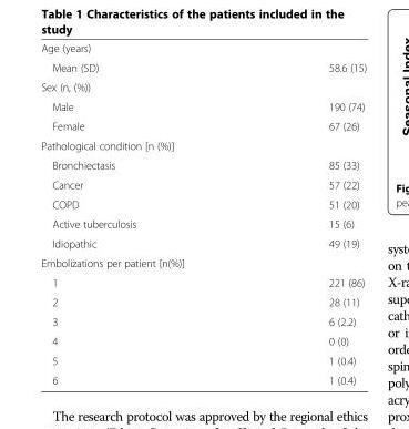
<table><tbody><tr><td colspan="2">Age (years)</td></tr><tr><td>Mean (SD)</td><td>58.6 (15)</td></tr><tr><td colspan="2">Sex (n, (%))</td></tr><tr><td>Male</td><td>190 (74)</td></tr><tr><td>Female</td><td>67 (26)</td></tr><tr><td colspan="2">Pathological condition [n (%)]</td></tr><tr><td>Bronchiectasis</td><td>85 (33)</td></tr><tr><td>Cancer</td><td>57 (22)</td></tr><tr><td>COPD</td><td>51 (20)</td></tr><tr><td>Active tuberculosis</td><td>15 (6)</td></tr><tr><td>Idiopathic</td><td>49 (19)</td></tr><tr><td colspan="2">Embolizations per patient [n(%)]</td></tr><tr><td>1</td><td>221 (86)</td></tr><tr><td>2</td><td>28 (11)</td></tr><tr><td>3</td><td>6 (2.2)</td></tr><tr><td>4</td><td>0 (0)</td></tr><tr><td>5</td><td>1 (0.4)</td></tr><tr><td>6</td><td>1 (0.4)</td></tr></tbody></table>